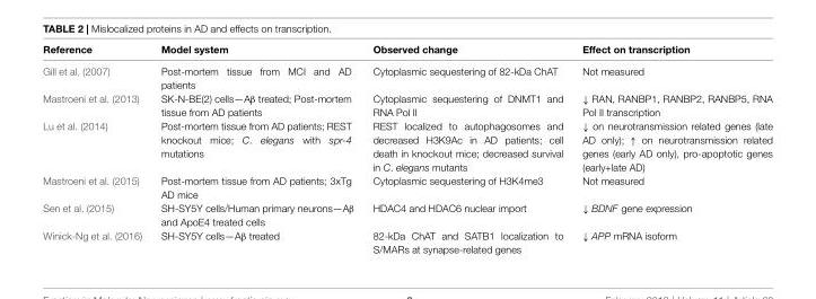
<table><thead><tr><td>Reference</td><td>Model system</td><td>Observed change</td><td>Effect on transcription</td></tr></thead><tbody><tr><td>Gill et al. (2007)</td><td>Post-mortem tissue from MCI and AD patients</td><td>Cytoplasmic sequestering of 82-kDa ChAT</td><td>Not measured</td></tr><tr><td>Mastroeni et al. (2013)</td><td>SK-N-BE(2) cells—Aβ treated; Post-mortem tissue from AD patients</td><td>Cytoplasmic sequestering of DNMT1 and RNA Pol II</td><td>↓ RAN, RANBP1, RANBP2, RANBP5, RNA Pol II transcription</td></tr><tr><td>Lu et al. (2014)</td><td>Post-mortem tissue from AD patients; REST knockout mice; C. elegans with spr-4 mutations</td><td>REST localized to autophagosomes and decreased H3K9Ac in AD patients; cell death in knockout mice; decreased survival in C. elegans mutants</td><td>↓ on neurotransmission related genes (late AD only); ↑ on neurotransmission related genes (early AD only), pro-apoptotic genes (early+late AD)</td></tr><tr><td>Mastroeni et al. (2015)</td><td>Post-mortem tissue from AD patients; 3xTg AD mice</td><td>Cytoplasmic sequestering of H3K4me3</td><td>Not measured</td></tr><tr><td>Sen et al. (2015)</td><td>SH-SY5Y cells/Human primary neurons—Aβ and ApoE4 treated cells</td><td>HDAC4 and HDAC6 nuclear import</td><td>↓ BDNF gene expression</td></tr><tr><td>Winick-Ng et al. (2016)</td><td>SH-SY5Y cells—Aβ treated</td><td>82-kDa ChAT and SATB1 localization to S/MARs at synapse-related genes</td><td>↓ APP mRNA isoform</td></tr></tbody></table>